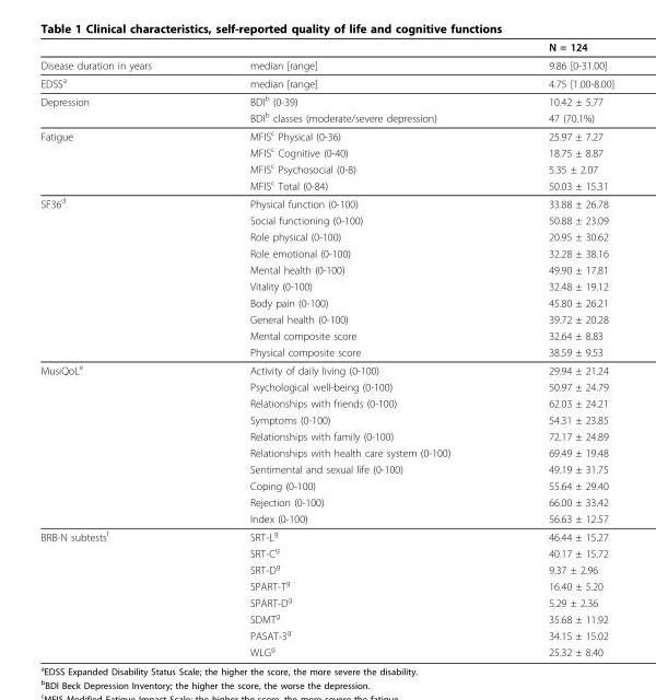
<table><thead><tr><td></td><td></td><td>N = 124</td></tr></thead><tbody><tr><td>Disease duration in years</td><td>median [range]</td><td>9.86 [0-31.00]</td></tr><tr><td>EDSS<sup>a</sup></td><td>median [range]</td><td>4.75 [1.00-8.00]</td></tr><tr><td rowspan="2">Depression</td><td>BDI<sup>b</sup> (0-39)</td><td>10.42 ± 5.77</td></tr><tr><td>BDI<sup>b</sup> classes (moderate/severe depression)</td><td>47 (70.1%)</td></tr><tr><td rowspan="4">Fatigue</td><td>MFIS<sup>c</sup> Physical (0-36)</td><td>25.97 ± 7.27</td></tr><tr><td>MFIS<sup>c</sup> Cognitive (0-40)</td><td>18.75 ± 8.87</td></tr><tr><td>MFIS<sup>c</sup> Psychosocial (0-8)</td><td>5.35 ± 2.07</td></tr><tr><td>MFIS<sup>c</sup> Total (0-84)</td><td>50.03 ± 15.31</td></tr><tr><td rowspan="10">SF36<sup>d</sup></td><td>Physical function (0-100)</td><td>33.88 ± 26.78</td></tr><tr><td>Social functioning (0-100)</td><td>50.88 ± 23.09</td></tr><tr><td>Role physical (0-100)</td><td>20.95 ± 30.62</td></tr><tr><td>Role emotional (0-100)</td><td>32.28 ± 38.16</td></tr><tr><td>Mental health (0-100)</td><td>49.90 ± 17.81</td></tr><tr><td>Vitality (0-100)</td><td>32.48 ± 19.12</td></tr><tr><td>Body pain (0-100)</td><td>45.80 ± 26.21</td></tr><tr><td>General health (0-100)</td><td>39.72 ± 20.28</td></tr><tr><td>Mental composite score</td><td>32.64 ± 8.83</td></tr><tr><td>Physical composite score</td><td>38.59 ± 9.53</td></tr><tr><td rowspan="10">MusiQoL<sup>e</sup></td><td>Activity of daily living (0-100)</td><td>29.94 ± 21.24</td></tr><tr><td>Psychological well-being (0-100)</td><td>50.97 ± 24.79</td></tr><tr><td>Relationships with friends (0-100)</td><td>62.03 ± 24.21</td></tr><tr><td>Symptoms (0-100)</td><td>54.31 ± 23.85</td></tr><tr><td>Relationships with family (0-100)</td><td>72.17 ± 24.89</td></tr><tr><td>Relationships with health care system (0-100)</td><td>69.49 ± 19.48</td></tr><tr><td>Sentimental and sexual life (0-100)</td><td>49.19 ± 31.75</td></tr><tr><td>Coping (0-100)</td><td>55.64 ± 29.40</td></tr><tr><td>Rejection (0-100)</td><td>66.00 ± 33.42</td></tr><tr><td>Index (0-100)</td><td>56.63 ± 12.57</td></tr><tr><td rowspan="8">BRB-N subtests<sup>f</sup></td><td>SRT-L<sup>g</sup></td><td>46.44 ± 15.27</td></tr><tr><td>SRT-C<sup>g</sup></td><td>40.17 ± 15.72</td></tr><tr><td>SRT-D<sup>g</sup></td><td>9.37 ± 2.96</td></tr><tr><td>SPART-T<sup>g</sup></td><td>16.40 ± 5.20</td></tr><tr><td>SPART-D<sup>g</sup></td><td>5.29 ± 2.36</td></tr><tr><td>SDMT<sup>g</sup></td><td>35.68 ± 11.92</td></tr><tr><td>PASAT-3<sup>g</sup></td><td>34.15 ± 15.02</td></tr><tr><td>WLG<sup>g</sup></td><td>25.32 ± 8.40</td></tr></tbody></table>